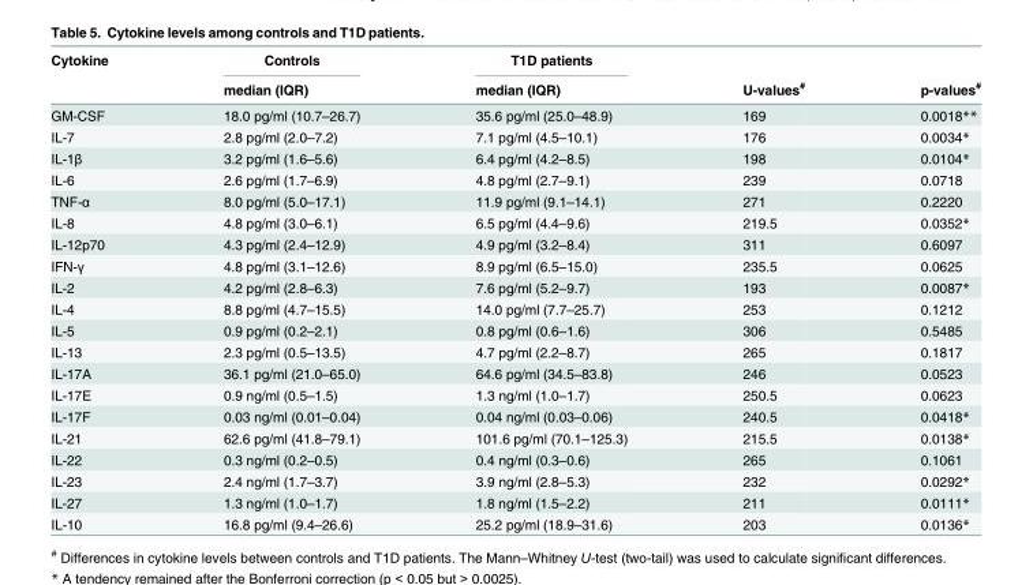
<table><thead><tr><td rowspan="2">Cytokine</td><td rowspan="2">Controls median (IQR)</td><td rowspan="2">T1D patients median (IQR)</td><td rowspan="2">U-values<sup>#</sup></td><td rowspan="2">p-values<sup>#</sup></td></tr><tr></tr></thead><tbody><tr><td>GM-CSF</td><td>18.0 pg/ml (10.7–26.7)</td><td>35.6 pg/ml (25.0–48.9)</td><td>169</td><td>0.0018**</td></tr><tr><td>IL-7</td><td>2.8 pg/ml (2.0–7.2)</td><td>7.1 pg/ml (4.5–10.1)</td><td>176</td><td>0.0034*</td></tr><tr><td>IL-1β</td><td>3.2 pg/ml (1.6–5.6)</td><td>6.4 pg/ml (4.2–8.5)</td><td>198</td><td>0.0104*</td></tr><tr><td>IL-6</td><td>2.6 pg/ml (1.7–6.9)</td><td>4.8 pg/ml (2.7–9.1)</td><td>239</td><td>0.0718</td></tr><tr><td>TNF-α</td><td>8.0 pg/ml (5.0–17.1)</td><td>11.9 pg/ml (9.1–14.1)</td><td>271</td><td>0.2220</td></tr><tr><td>IL-8</td><td>4.8 pg/ml (3.0–6.1)</td><td>6.5 pg/ml (4.4–9.6)</td><td>219.5</td><td>0.0352*</td></tr><tr><td>IL-12p70</td><td>4.3 pg/ml (2.4–12.9)</td><td>4.9 pg/ml (3.2–8.4)</td><td>311</td><td>0.6097</td></tr><tr><td>IFN-γ</td><td>4.8 pg/ml (3.1–12.6)</td><td>8.9 pg/ml (6.5–15.0)</td><td>235.5</td><td>0.0625</td></tr><tr><td>IL-2</td><td>4.2 pg/ml (2.8–6.3)</td><td>7.6 pg/ml (5.2–9.7)</td><td>193</td><td>0.0087*</td></tr><tr><td>IL-4</td><td>8.8 pg/ml (4.7–15.5)</td><td>14.0 pg/ml (7.7–25.7)</td><td>253</td><td>0.1212</td></tr><tr><td>IL-5</td><td>0.9 pg/ml (0.2–2.1)</td><td>0.8 pg/ml (0.6–1.6)</td><td>306</td><td>0.5485</td></tr><tr><td>IL-13</td><td>2.3 pg/ml (0.5–13.5)</td><td>4.7 pg/ml (2.2–8.7)</td><td>265</td><td>0.1817</td></tr><tr><td>IL-17A</td><td>36.1 pg/ml (21.0–65.0)</td><td>64.6 pg/ml (34.5–83.8)</td><td>246</td><td>0.0523</td></tr><tr><td>IL-17E</td><td>0.9 ng/ml (0.5–1.5)</td><td>1.3 ng/ml (1.0–1.7)</td><td>250.5</td><td>0.0623</td></tr><tr><td>IL-17F</td><td>0.03 ng/ml (0.01–0.04)</td><td>0.04 ng/ml (0.03–0.06)</td><td>240.5</td><td>0.0418*</td></tr><tr><td>IL-21</td><td>62.6 pg/ml (41.8–79.1)</td><td>101.6 pg/ml (70.1–125.3)</td><td>215.5</td><td>0.0138*</td></tr><tr><td>IL-22</td><td>0.3 ng/ml (0.2–0.5)</td><td>0.4 ng/ml (0.3–0.6)</td><td>265</td><td>0.1061</td></tr><tr><td>IL-23</td><td>2.4 ng/ml (1.7–3.7)</td><td>3.9 ng/ml (2.8–5.3)</td><td>232</td><td>0.0292*</td></tr><tr><td>IL-27</td><td>1.3 ng/ml (1.0–1.7)</td><td>1.8 ng/ml (1.5–2.2)</td><td>211</td><td>0.0111*</td></tr><tr><td>IL-10</td><td>16.8 pg/ml (9.4–26.6)</td><td>25.2 pg/ml (18.9–31.6)</td><td>203</td><td>0.0136*</td></tr></tbody></table>